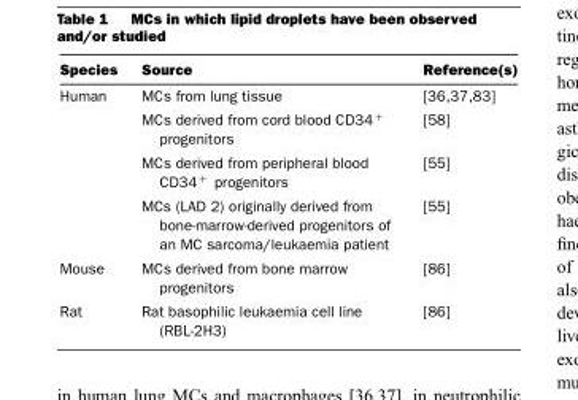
<table><thead><tr><td>Species</td><td>Source</td><td>Reference(s)</td></tr></thead><tbody><tr><td rowspan="4">Human</td><td>MCs from lung tissue</td><td>[36,37,83]</td></tr><tr><td>MCs derived from cord blood CD34 <sup>+</sup> progenitors</td><td>[58]</td></tr><tr><td>MCs derived from peripheral blood CD34 <sup>+</sup> progenitors</td><td>[55]</td></tr><tr><td>MCs (LAD 2) originally derived from bone-marrow-derived progenitors of an MC sarcoma/leukaemia patient</td><td>[55]</td></tr><tr><td>Mouse</td><td>MCs derived from bone marrow progenitors</td><td>[86]</td></tr><tr><td>Rat</td><td>Rat basophilic leukaemia cell line (RBL-2H3)</td><td>[86]</td></tr></tbody></table>